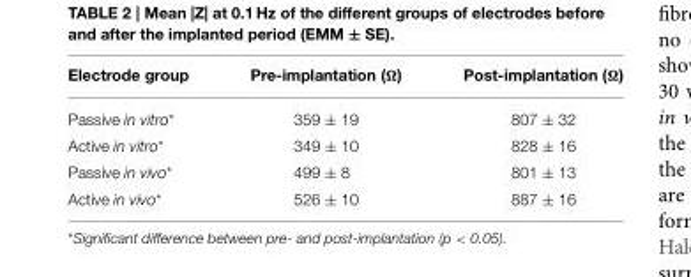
<table><thead><tr><td>Electrode group</td><td>Pre-implantation (Ω)</td><td>Post-implantation (Ω)</td></tr></thead><tbody><tr><td>Passive in vitro*</td><td>359 ± 19</td><td>807 ± 32</td></tr><tr><td>Active in vitro*</td><td>349 ± 10</td><td>828 ± 16</td></tr><tr><td>Passive in vivo*</td><td>499 ± 8</td><td>801 ± 13</td></tr><tr><td>Active in vivo*</td><td>526 ± 10</td><td>887 ± 16</td></tr></tbody></table>